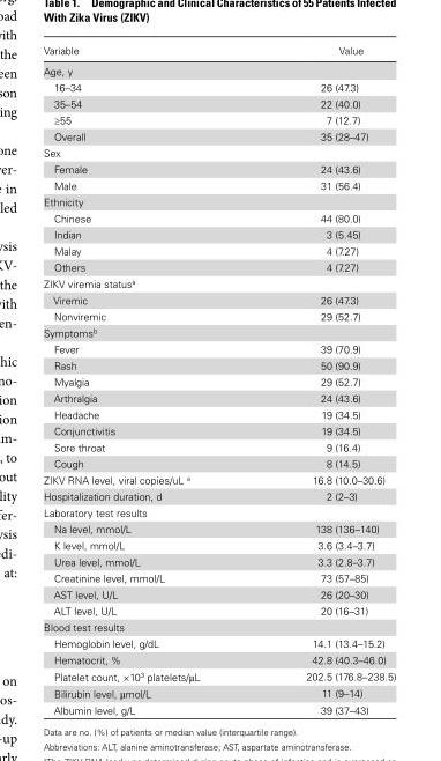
<table><thead><tr><td>Variable</td><td>Value</td></tr></thead><tbody><tr><td colspan="2">Age, y</td></tr><tr><td>16–34</td><td>26 (47.3)</td></tr><tr><td>35–54</td><td>22 (40.0)</td></tr><tr><td>≥55</td><td>7 (12.7)</td></tr><tr><td>Overall</td><td>35 (28–47)</td></tr><tr><td colspan="2">Sex</td></tr><tr><td>Female</td><td>24 (43.6)</td></tr><tr><td>Male</td><td>31 (56.4)</td></tr><tr><td colspan="2">Ethnicity</td></tr><tr><td>Chinese</td><td>44 (80.0)</td></tr><tr><td>Indian</td><td>3 (5.45)</td></tr><tr><td>Malay</td><td>4 (7.27)</td></tr><tr><td>Others</td><td>4 (7.27)</td></tr><tr><td colspan="2">ZIKV viremia status<sup>a</sup></td></tr><tr><td>Viremic</td><td>26 (47.3)</td></tr><tr><td>Nonviremic</td><td>29 (52.7)</td></tr><tr><td colspan="2">Symptoms<sup>b</sup></td></tr><tr><td>Fever</td><td>39 (70.9)</td></tr><tr><td>Rash</td><td>50 (90.9)</td></tr><tr><td>Myalgia</td><td>29 (52.7)</td></tr><tr><td>Arthralgia</td><td>24 (43.6)</td></tr><tr><td>Headache</td><td>19 (34.5)</td></tr><tr><td>Conjunctivitis</td><td>19 (34.5)</td></tr><tr><td>Sore throat</td><td>9 (16.4)</td></tr><tr><td>Cough</td><td>8 (14.5)</td></tr><tr><td>ZIKV RNA level, viral copies/uL <sup>a</sup></td><td>16.8 (10.0–30.6)</td></tr><tr><td>Hospitalization duration, d</td><td>2 (2–3)</td></tr><tr><td colspan="2">Laboratory test results</td></tr><tr><td>Na level, mmol/L</td><td>138 (136–140)</td></tr><tr><td>K level, mmol/L</td><td>3.6 (3.4–3.7)</td></tr><tr><td>Urea level, mmol/L</td><td>3.3 (2.8–3.7)</td></tr><tr><td>Creatinine level, mmol/L</td><td>73 (57–85)</td></tr><tr><td>AST level, U/L</td><td>26 (20–30)</td></tr><tr><td>ALT level, U/L</td><td>20 (16–31)</td></tr><tr><td colspan="2">Blood test results</td></tr><tr><td>Hemoglobin level, g/dL</td><td>14.1 (13.4–15.2)</td></tr><tr><td>Hematocrit, %</td><td>42.8 (40.3–46.0)</td></tr><tr><td>Platelet count, ×10<sup>3</sup> platelets/µL</td><td>202.5 (176.8–238.5)</td></tr><tr><td>Bilirubin level, µmol/L</td><td>11 (9–14)</td></tr><tr><td>Albumin level, g/L</td><td>39 (37–43)</td></tr></tbody></table>